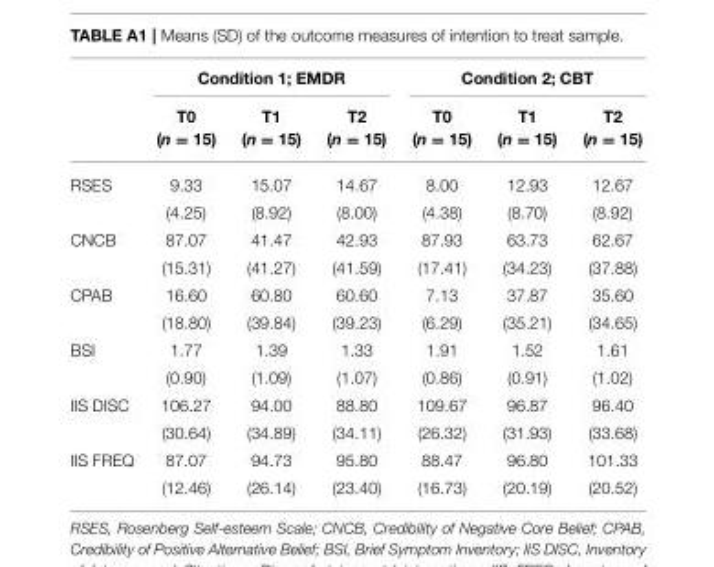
<table><thead><tr><td rowspan="2"></td><td colspan="3">Condition 1; EMDR</td><td colspan="3">Condition 2; CBT</td></tr><tr><td>T0 (n = 15)</td><td>T1 (n = 15)</td><td>T2 (n = 15)</td><td>T0 (n = 15)</td><td>T1 (n = 15)</td><td>T2 (n = 15)</td></tr></thead><tbody><tr><td rowspan="2">RSES</td><td>9.33</td><td>15.07</td><td>14.67</td><td>8.00</td><td>12.93</td><td>12.67</td></tr><tr><td>(4.25)</td><td>(8.92)</td><td>(8.00)</td><td>(4.38)</td><td>(8.70)</td><td>(8.92)</td></tr><tr><td rowspan="2">CNCB</td><td>87.07</td><td>41.47</td><td>42.93</td><td>87.93</td><td>63.73</td><td>62.67</td></tr><tr><td>(15.31)</td><td>(41.27)</td><td>(41.59)</td><td>(17.41)</td><td>(34.23)</td><td>(37.88)</td></tr><tr><td rowspan="2">CPAB</td><td>16.60</td><td>60.80</td><td>60.60</td><td>7.13</td><td>37.87</td><td>35.60</td></tr><tr><td>(18.80)</td><td>(39.84)</td><td>(39.23)</td><td>(6.29)</td><td>(35.21)</td><td>(34.65)</td></tr><tr><td rowspan="2">BSI</td><td>1.77</td><td>1.39</td><td>1.33</td><td>1.91</td><td>1.52</td><td>1.61</td></tr><tr><td>(0.90)</td><td>(1.09)</td><td>(1.07)</td><td>(0.86)</td><td>(0.91)</td><td>(1.02)</td></tr><tr><td rowspan="2">IIS DISC</td><td>106.27</td><td>94.00</td><td>88.80</td><td>109.67</td><td>96.87</td><td>96.40</td></tr><tr><td>(30.64)</td><td>(34.89)</td><td>(34.11)</td><td>(26.32)</td><td>(31.93)</td><td>(33.68)</td></tr><tr><td rowspan="2">IIS FREQ</td><td>87.07</td><td>94.73</td><td>95.80</td><td>88.47</td><td>96.80</td><td>101.33</td></tr><tr><td>(12.46)</td><td>(26.14)</td><td>(23.40)</td><td>(16.73)</td><td>(20.19)</td><td>(20.52)</td></tr></tbody></table>